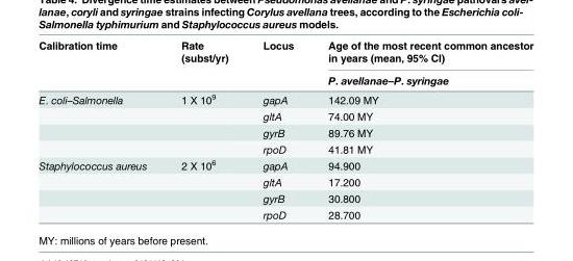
<table><thead><tr><td rowspan="2">Calibration time</td><td rowspan="2">Rate (subst/yr)</td><td rowspan="2">Locus</td><td rowspan="2">Age of the most recent common ancestor in years (mean, 95% CI) P. avellanae–P. syringae</td></tr><tr></tr></thead><tbody><tr><td rowspan="4">E. coli–Salmonella</td><td>1 X 10<sup>9</sup></td><td>gapA</td><td>142.09 MY</td></tr><tr><td></td><td>gltA</td><td>74.00 MY</td></tr><tr><td></td><td>gyrB</td><td>89.76 MY</td></tr><tr><td></td><td>rpoD</td><td>41.81 MY</td></tr><tr><td rowspan="4">Staphylococcus aureus</td><td>2 X 10<sup>6</sup></td><td>gapA</td><td>94.900</td></tr><tr><td></td><td>gltA</td><td>17.200</td></tr><tr><td></td><td>gyrB</td><td>30.800</td></tr><tr><td></td><td>rpoD</td><td>28.700</td></tr></tbody></table>